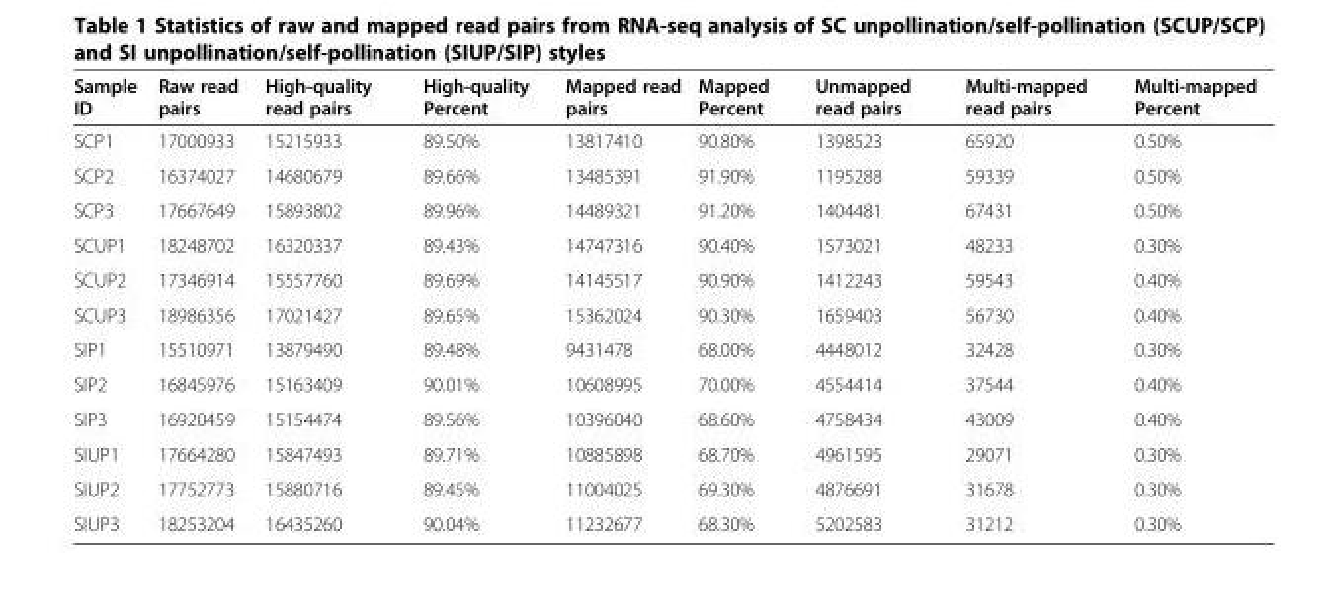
<table><thead><tr><td>Sample ID</td><td>Raw read pairs</td><td>High-quality read pairs</td><td>High-quality Percent</td><td>Mapped read pairs</td><td>Mapped Percent</td><td>Unmapped read pairs</td><td>Multi-mapped read pairs</td><td>Multi-mapped Percent</td></tr></thead><tbody><tr><td>SCP1</td><td>17000933</td><td>15215933</td><td>89.50%</td><td>13817410</td><td>90.80%</td><td>1398523</td><td>65920</td><td>0.50%</td></tr><tr><td>SCP2</td><td>16374027</td><td>14680679</td><td>89.66%</td><td>13485391</td><td>91.90%</td><td>1195288</td><td>59339</td><td>0.50%</td></tr><tr><td>SCP3</td><td>17667649</td><td>15893802</td><td>89.96%</td><td>14489321</td><td>91.20%</td><td>1404481</td><td>67431</td><td>0.50%</td></tr><tr><td>SCUP1</td><td>18248702</td><td>16320337</td><td>89.43%</td><td>14747316</td><td>90.40%</td><td>1573021</td><td>48233</td><td>0.30%</td></tr><tr><td>SCUP2</td><td>17346914</td><td>15557760</td><td>89.69%</td><td>14145517</td><td>90.90%</td><td>1412243</td><td>59543</td><td>0.40%</td></tr><tr><td>SCUP3</td><td>18986356</td><td>17021427</td><td>89.65%</td><td>15362024</td><td>90.30%</td><td>1659403</td><td>56730</td><td>0.40%</td></tr><tr><td>SIP1</td><td>15510971</td><td>13879490</td><td>89.48%</td><td>9431478</td><td>68.00%</td><td>4448012</td><td>32428</td><td>0.30%</td></tr><tr><td>SIP2</td><td>16845976</td><td>15163409</td><td>90.01%</td><td>10608995</td><td>70.00%</td><td>4554414</td><td>37544</td><td>0.40%</td></tr><tr><td>SIP3</td><td>16920459</td><td>15154474</td><td>89.56%</td><td>10396040</td><td>68.60%</td><td>4758434</td><td>43009</td><td>0.40%</td></tr><tr><td>SIUP1</td><td>17664280</td><td>15847493</td><td>89.71%</td><td>10885898</td><td>68.70%</td><td>4961595</td><td>29071</td><td>0.30%</td></tr><tr><td>SIUP2</td><td>17752773</td><td>15880716</td><td>89.45%</td><td>11004025</td><td>69.30%</td><td>4876691</td><td>31678</td><td>0.30%</td></tr><tr><td>SIUP3</td><td>18253204</td><td>16435260</td><td>90.04%</td><td>11232677</td><td>68.30%</td><td>5202583</td><td>31212</td><td>0.30%</td></tr></tbody></table>